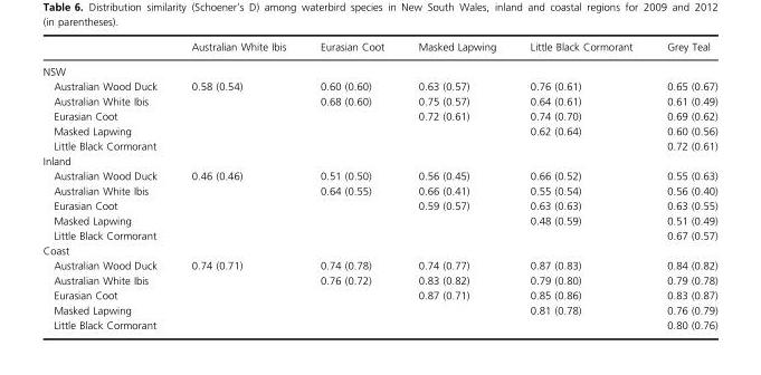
<table><thead><tr><td></td><td>Australian White Ibis</td><td>Eurasian Coot</td><td>Masked Lapwing</td><td>Little Black Cormorant</td><td>Grey Teal</td></tr></thead><tbody><tr><td colspan="6">NSW</td></tr><tr><td>Australian Wood Duck</td><td>0.58 (0.54)</td><td>0.60 (0.60)</td><td>0.63 (0.57)</td><td>0.76 (0.61)</td><td>0.65 (0.67)</td></tr><tr><td>Australian White Ibis</td><td></td><td>0.68 (0.60)</td><td>0.75 (0.57)</td><td>0.64 (0.61)</td><td>0.61 (0.49)</td></tr><tr><td>Eurasian Coot</td><td></td><td></td><td>0.72 (0.61)</td><td>0.74 (0.70)</td><td>0.69 (0.62)</td></tr><tr><td>Masked Lapwing</td><td></td><td></td><td></td><td>0.62 (0.64)</td><td>0.60 (0.56)</td></tr><tr><td>Little Black Cormorant</td><td></td><td></td><td></td><td></td><td>0.72 (0.61)</td></tr><tr><td colspan="6">Inland</td></tr><tr><td>Australian Wood Duck</td><td>0.46 (0.46)</td><td>0.51 (0.50)</td><td>0.56 (0.45)</td><td>0.66 (0.52)</td><td>0.55 (0.63)</td></tr><tr><td>Australian White Ibis</td><td></td><td>0.64 (0.55)</td><td>0.66 (0.41)</td><td>0.55 (0.54)</td><td>0.56 (0.40)</td></tr><tr><td>Eurasian Coot</td><td></td><td></td><td>0.59 (0.57)</td><td>0.63 (0.63)</td><td>0.63 (0.55)</td></tr><tr><td>Masked Lapwing</td><td></td><td></td><td></td><td>0.48 (0.59)</td><td>0.51 (0.49)</td></tr><tr><td>Little Black Cormorant</td><td></td><td></td><td></td><td></td><td>0.67 (0.57)</td></tr><tr><td colspan="6">Coast</td></tr><tr><td>Australian Wood Duck</td><td>0.74 (0.71)</td><td>0.74 (0.78)</td><td>0.74 (0.77)</td><td>0.87 (0.83)</td><td>0.84 (0.82)</td></tr><tr><td>Australian White Ibis</td><td></td><td>0.76 (0.72)</td><td>0.83 (0.82)</td><td>0.79 (0.80)</td><td>0.79 (0.78)</td></tr><tr><td>Eurasian Coot</td><td></td><td></td><td>0.87 (0.71)</td><td>0.85 (0.86)</td><td>0.83 (0.87)</td></tr><tr><td>Masked Lapwing</td><td></td><td></td><td></td><td>0.81 (0.78)</td><td>0.76 (0.79)</td></tr><tr><td>Little Black Cormorant</td><td></td><td></td><td></td><td></td><td>0.80 (0.76)</td></tr></tbody></table>